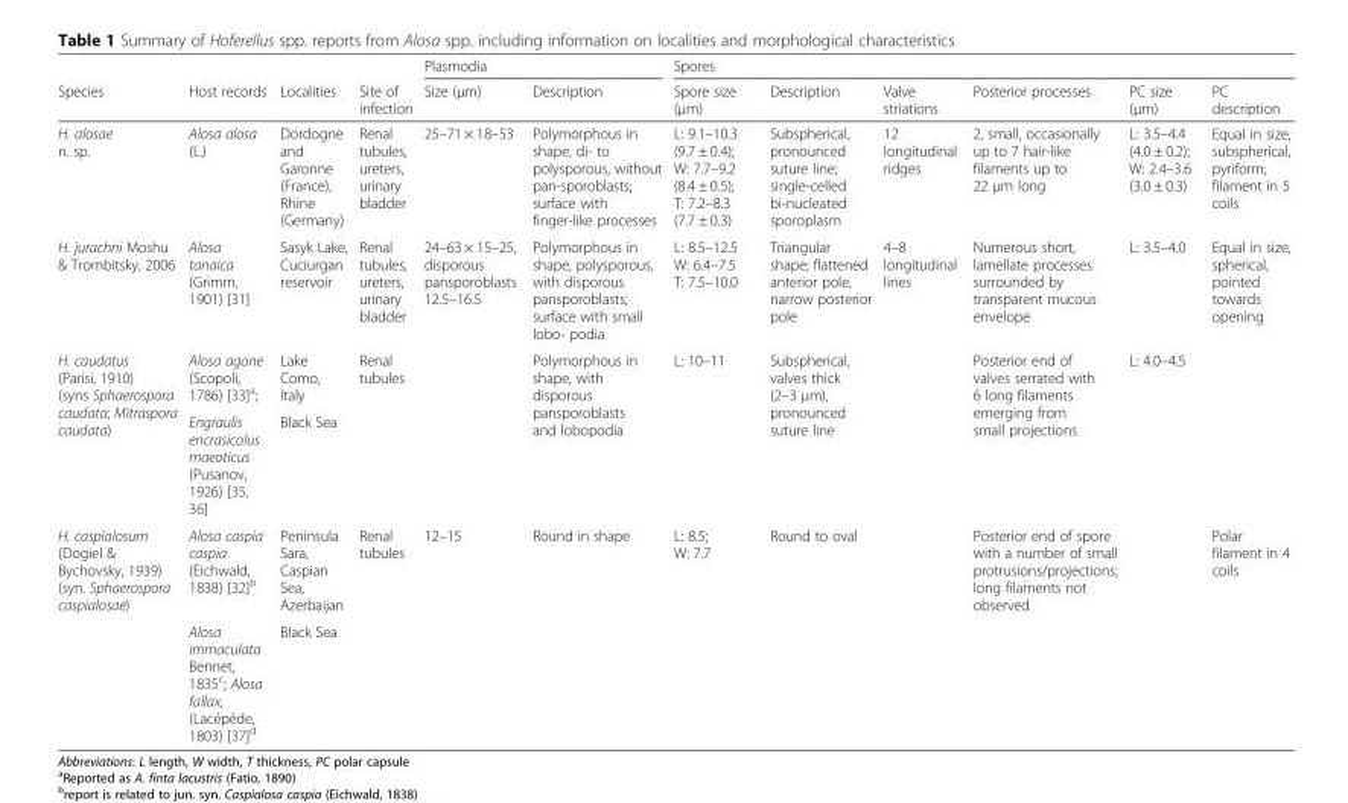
<table><thead><tr><td rowspan="2">Species</td><td rowspan="2">Host records</td><td rowspan="2">Localities</td><td rowspan="2">Site of infection</td><td colspan="2">Plasmodia</td><td colspan="6">Spores</td></tr><tr><td>Size (μm)</td><td>Description</td><td>Spore size (μm)</td><td>Description</td><td>Valve striations</td><td>Posterior processes</td><td>PC size (μm)</td><td>PC description</td></tr></thead><tbody><tr><td>H. alosae n. sp.</td><td>Alosa alosa (L.)</td><td>Dordogne and Garonne (France), Rhine (Germany)</td><td>Renal tubules, ureters, urinary bladder</td><td>25–71 × 18–53</td><td>Polymorphous in shape, di- to polysporous, without pan-sporoblasts; surface with finger-like processes</td><td>L: 9.1–10.3 (9.7 ± 0.4); W: 7.7–9.2 (8.4 ± 0.5); T: 7.2–8.3 (7.7 ± 0.3)</td><td>Subspherical, pronounced suture line; single-celled bi-nucleated sporoplasm</td><td>12 longitudinal ridges</td><td>2, small, occasionally up to 7 hair-like filaments up to 22 μm long</td><td>L: 3.5–4.4 (4.0 ± 0.2); W: 2.4–3.6 (3.0 ± 0.3)</td><td>Equal in size, subspherical, pyriform; filament in 5 coils</td></tr><tr><td>H. jurachni Moshu &amp; Trombitsky, 2006</td><td>Alosa tanaica (Grimm, 1901) [31]</td><td>Sasyk Lake, Cuciurgan reservoir</td><td>Renal tubules, ureters, urinary bladder</td><td>24–63 × 15–25, disporous pansporoblasts 12.5–16.5</td><td>Polymorphous in shape, polysporous, with disporous pansporoblasts; surface with small lobo- podia</td><td>L: 8.5–12.5 W: 6.4–7.5 T: 7.5–10.0</td><td>Triangular shape; flattened anterior pole, narrow posterior pole</td><td>4–8 longitudinal lines</td><td>Numerous short, lamellate processes surrounded by transparent mucous envelope</td><td>L: 3.5–4.0</td><td>Equal in size, spherical, pointed towards opening</td></tr><tr><td rowspan="2">H. caudatus (Parisi, 1910) (syns Sphaerospora caudata; Mitraspora caudata)</td><td>Alosa agone (Scopoli, 1786) [33]<sup>a</sup>;</td><td>Lake Como, Italy</td><td rowspan="2">Renal tubules</td><td rowspan="2"></td><td rowspan="2">Polymorphous in shape, with disporous pansporoblasts and lobopodia</td><td rowspan="2">L: 10–11</td><td rowspan="2">Subspherical, valves thick (2–3 μm), pronounced suture line</td><td rowspan="2"></td><td rowspan="2">Posterior end of valves serrated with 6 long filaments emerging from small projections</td><td rowspan="2">L: 4.0–4.5</td><td rowspan="2"></td></tr><tr><td>Engraulis encrasicolus maeoticus (Pusanov, 1926) [35, 36]</td><td>Black Sea</td></tr><tr><td rowspan="2">H. caspialosum (Dogiel &amp; Bychovsky, 1939) (syn. Sphaerospora caspialosae)</td><td>Alosa caspia caspia (Eichwald, 1838) [32]<sup>b</sup></td><td>Peninsula Sara, Caspian Sea, Azerbaijan</td><td rowspan="2">Renal tubules</td><td rowspan="2">12–15</td><td rowspan="2">Round in shape</td><td rowspan="2">L: 8.5; W: 7.7</td><td rowspan="2">Round to oval</td><td rowspan="2"></td><td rowspan="2">Posterior end of spore with a number of small protrusions/projections; long filaments not observed</td><td rowspan="2"></td><td rowspan="2">Polar filament in 4 coils</td></tr><tr><td>Alosa immaculata Bennet, 1835<sup>c</sup>; Alosa fallax, (Lacépède, 1803) [37]<sup>d</sup></td><td>Black Sea</td></tr></tbody></table>